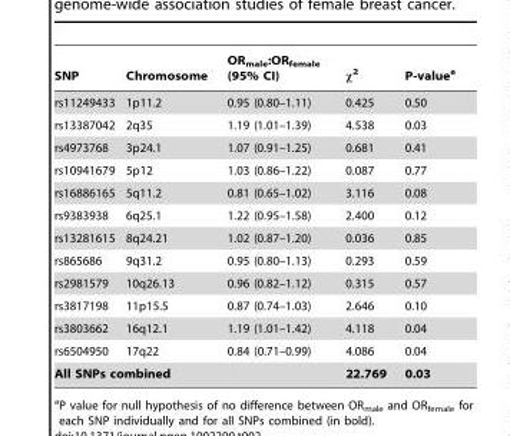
<table><thead><tr><td>SNP</td><td>Chromosome</td><td>OR<sub>male</sub>:OR<sub>female</sub> (95% CI)</td><td>χ<sup>2</sup></td><td>P-value<sup>a</sup></td></tr></thead><tbody><tr><td>rs11249433</td><td>1p11.2</td><td>0.95 (0.80–1.11)</td><td>0.425</td><td>0.50</td></tr><tr><td>rs13387042</td><td>2q35</td><td>1.19 (1.01–1.39)</td><td>4.538</td><td>0.03</td></tr><tr><td>rs4973768</td><td>3p24.1</td><td>1.07 (0.91–1.25)</td><td>0.681</td><td>0.41</td></tr><tr><td>rs10941679</td><td>5p12</td><td>1.03 (0.86–1.22)</td><td>0.087</td><td>0.77</td></tr><tr><td>rs16886165</td><td>5q11.2</td><td>0.81 (0.65–1.02)</td><td>3.116</td><td>0.08</td></tr><tr><td>rs9383938</td><td>6q25.1</td><td>1.22 (0.95–1.58)</td><td>2.400</td><td>0.12</td></tr><tr><td>rs13281615</td><td>8q24.21</td><td>1.02 (0.87–1.20)</td><td>0.036</td><td>0.85</td></tr><tr><td>rs865686</td><td>9q31.2</td><td>0.95 (0.80–1.13)</td><td>0.293</td><td>0.59</td></tr><tr><td>rs2981579</td><td>10q26.13</td><td>0.96 (0.82–1.12)</td><td>0.315</td><td>0.57</td></tr><tr><td>rs3817198</td><td>11p15.5</td><td>0.87 (0.74–1.03)</td><td>2.646</td><td>0.10</td></tr><tr><td>rs3803662</td><td>16q12.1</td><td>1.19 (1.01–1.42)</td><td>4.118</td><td>0.04</td></tr><tr><td>rs6504950</td><td>17q22</td><td>0.84 (0.71–0.99)</td><td>4.086</td><td>0.04</td></tr><tr><td colspan="2">All SNPs combined</td><td></td><td>22.769</td><td>0.03</td></tr></tbody></table>